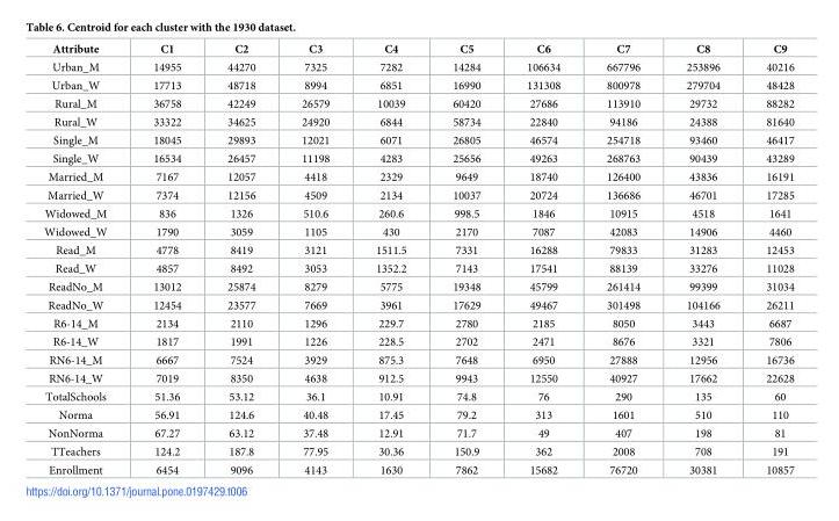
<table><thead><tr><td>Attribute</td><td>C1</td><td>C2</td><td>C3</td><td>C4</td><td>C5</td><td>C6</td><td>C7</td><td>C8</td><td>C9</td></tr></thead><tbody><tr><td>Urban_M</td><td>14955</td><td>44270</td><td>7325</td><td>7282</td><td>14284</td><td>106634</td><td>667796</td><td>253896</td><td>40216</td></tr><tr><td>Urban_W</td><td>17713</td><td>48718</td><td>8994</td><td>6851</td><td>16990</td><td>131308</td><td>800978</td><td>279704</td><td>48428</td></tr><tr><td>Rural_M</td><td>36758</td><td>42249</td><td>26579</td><td>10039</td><td>60420</td><td>27686</td><td>113910</td><td>29732</td><td>88282</td></tr><tr><td>Rural_W</td><td>33322</td><td>34625</td><td>24920</td><td>6844</td><td>58734</td><td>22840</td><td>94186</td><td>24388</td><td>81640</td></tr><tr><td>Single_M</td><td>18045</td><td>29893</td><td>12021</td><td>6071</td><td>26805</td><td>46574</td><td>254718</td><td>93460</td><td>46417</td></tr><tr><td>Single_W</td><td>16534</td><td>26457</td><td>11198</td><td>4283</td><td>25656</td><td>49263</td><td>268763</td><td>90439</td><td>43289</td></tr><tr><td>Married_M</td><td>7167</td><td>12057</td><td>4418</td><td>2329</td><td>9649</td><td>18740</td><td>126400</td><td>43836</td><td>16191</td></tr><tr><td>Married_W</td><td>7374</td><td>12156</td><td>4509</td><td>2134</td><td>10037</td><td>20724</td><td>136686</td><td>46701</td><td>17285</td></tr><tr><td>Widowed_M</td><td>836</td><td>1326</td><td>510.6</td><td>260.6</td><td>998.5</td><td>1846</td><td>10915</td><td>4518</td><td>1641</td></tr><tr><td>Widowed_W</td><td>1790</td><td>3059</td><td>1105</td><td>430</td><td>2170</td><td>7087</td><td>42083</td><td>14906</td><td>4460</td></tr><tr><td>Read_M</td><td>4778</td><td>8419</td><td>3121</td><td>1511.5</td><td>7331</td><td>16288</td><td>79833</td><td>31283</td><td>12453</td></tr><tr><td>Read_W</td><td>4857</td><td>8492</td><td>3053</td><td>1352.2</td><td>7143</td><td>17541</td><td>88139</td><td>33276</td><td>11028</td></tr><tr><td>ReadNo_M</td><td>13012</td><td>25874</td><td>8279</td><td>5775</td><td>19348</td><td>45799</td><td>261414</td><td>99399</td><td>31034</td></tr><tr><td>ReadNo_W</td><td>12454</td><td>23577</td><td>7669</td><td>3961</td><td>17629</td><td>49467</td><td>301498</td><td>104166</td><td>26211</td></tr><tr><td>R6-14_M</td><td>2134</td><td>2110</td><td>1296</td><td>229.7</td><td>2780</td><td>2185</td><td>8050</td><td>3443</td><td>6687</td></tr><tr><td>R6-14_W</td><td>1817</td><td>1991</td><td>1226</td><td>228.5</td><td>2702</td><td>2471</td><td>8676</td><td>3321</td><td>7806</td></tr><tr><td>RN6-14_M</td><td>6667</td><td>7524</td><td>3929</td><td>875.3</td><td>7648</td><td>6950</td><td>27888</td><td>12956</td><td>16736</td></tr><tr><td>RN6-14_W</td><td>7019</td><td>8350</td><td>4638</td><td>912.5</td><td>9943</td><td>12550</td><td>40927</td><td>17662</td><td>22628</td></tr><tr><td>TotalSchools</td><td>51.36</td><td>53.12</td><td>36.1</td><td>10.91</td><td>74.8</td><td>76</td><td>290</td><td>135</td><td>60</td></tr><tr><td>Norma</td><td>56.91</td><td>124.6</td><td>40.48</td><td>17.45</td><td>79.2</td><td>313</td><td>1601</td><td>510</td><td>110</td></tr><tr><td>NonNorma</td><td>67.27</td><td>63.12</td><td>37.48</td><td>12.91</td><td>71.7</td><td>49</td><td>407</td><td>198</td><td>81</td></tr><tr><td>TTeachers</td><td>124.2</td><td>187.8</td><td>77.95</td><td>30.36</td><td>150.9</td><td>362</td><td>2008</td><td>708</td><td>191</td></tr><tr><td>Enrollment</td><td>6454</td><td>9096</td><td>4143</td><td>1630</td><td>7862</td><td>15682</td><td>76720</td><td>30381</td><td>10857</td></tr></tbody></table>